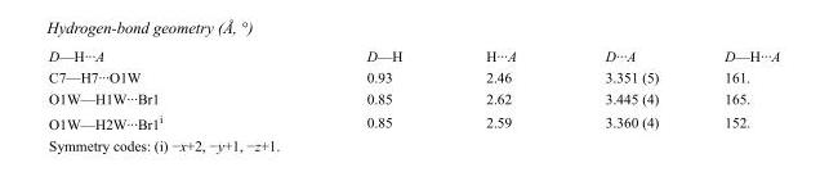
<table><tbody><tr><td>D—H···A</td><td>D—H</td><td>H···A</td><td>D···A</td><td>D—H···A</td></tr><tr><td>C7—H7···O1W</td><td>0.93</td><td>2.46</td><td>3.351 (5)</td><td>161.</td></tr><tr><td>O1W—H1W···Br1</td><td>0.85</td><td>2.62</td><td>3.445 (4)</td><td>165.</td></tr><tr><td>O1W—H2W···Br1<sup>i</sup></td><td>0.85</td><td>2.59</td><td>3.360 (4)</td><td>152.</td></tr></tbody></table>